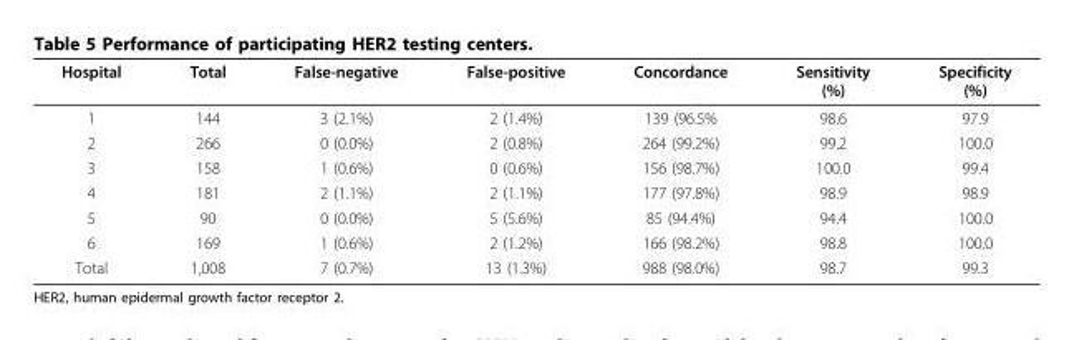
<table><thead><tr><td>Hospital</td><td>Total</td><td>False-negative</td><td>False-positive</td><td>Concordance</td><td>Sensitivity (%)</td><td>Specificity (%)</td></tr></thead><tbody><tr><td>1</td><td>144</td><td>3 (2.1%)</td><td>2 (1.4%)</td><td>139 (96.5%</td><td>98.6</td><td>97.9</td></tr><tr><td>2</td><td>266</td><td>0 (0.0%)</td><td>2 (0.8%)</td><td>264 (99.2%)</td><td>99.2</td><td>100.0</td></tr><tr><td>3</td><td>158</td><td>1 (0.6%)</td><td>0 (0.6%)</td><td>156 (98.7%)</td><td>100.0</td><td>99.4</td></tr><tr><td>4</td><td>181</td><td>2 (1.1%)</td><td>2 (1.1%)</td><td>177 (97.8%)</td><td>98.9</td><td>98.9</td></tr><tr><td>5</td><td>90</td><td>0 (0.0%)</td><td>5 (5.6%)</td><td>85 (94.4%)</td><td>94.4</td><td>100.0</td></tr><tr><td>6</td><td>169</td><td>1 (0.6%)</td><td>2 (1.2%)</td><td>166 (98.2%)</td><td>98.8</td><td>100.0</td></tr><tr><td>Total</td><td>1,008</td><td>7 (0.7%)</td><td>13 (1.3%)</td><td>988 (98.0%)</td><td>98.7</td><td>99.3</td></tr></tbody></table>